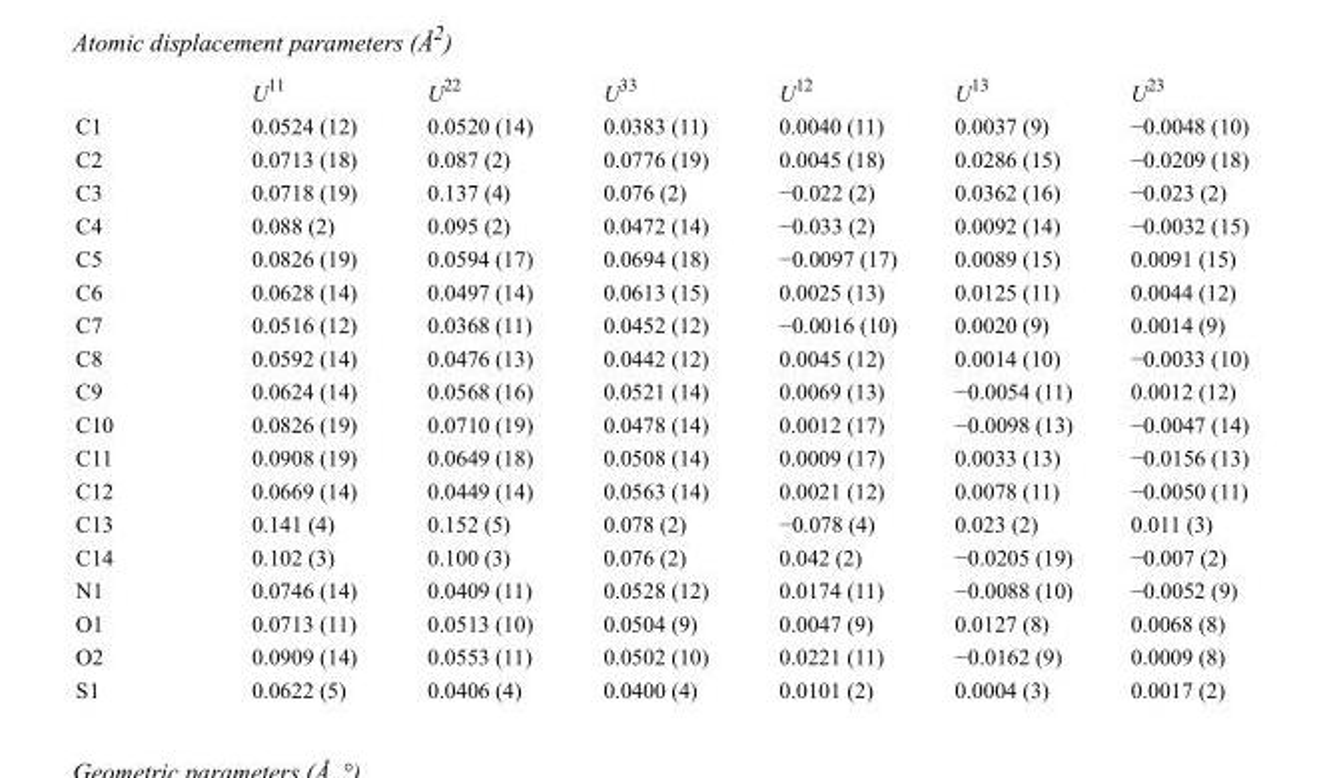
<table><thead><tr><td></td><td>U<sup>11</sup></td><td>U<sup>22</sup></td><td>U<sup>33</sup></td><td>U<sup>12</sup></td><td>U<sup>13</sup></td><td>U<sup>23</sup></td></tr></thead><tbody><tr><td>C1</td><td>0.0524 (12)</td><td>0.0520 (14)</td><td>0.0383 (11)</td><td>0.0040 (11)</td><td>0.0037 (9)</td><td>−0.0048 (10)</td></tr><tr><td>C2</td><td>0.0713 (18)</td><td>0.087 (2)</td><td>0.0776 (19)</td><td>0.0045 (18)</td><td>0.0286 (15)</td><td>−0.0209 (18)</td></tr><tr><td>C3</td><td>0.0718 (19)</td><td>0.137 (4)</td><td>0.076 (2)</td><td>−0.022 (2)</td><td>0.0362 (16)</td><td>−0.023 (2)</td></tr><tr><td>C4</td><td>0.088 (2)</td><td>0.095 (2)</td><td>0.0472 (14)</td><td>−0.033 (2)</td><td>0.0092 (14)</td><td>−0.0032 (15)</td></tr><tr><td>C5</td><td>0.0826 (19)</td><td>0.0594 (17)</td><td>0.0694 (18)</td><td>−0.0097 (17)</td><td>0.0089 (15)</td><td>0.0091 (15)</td></tr><tr><td>C6</td><td>0.0628 (14)</td><td>0.0497 (14)</td><td>0.0613 (15)</td><td>0.0025 (13)</td><td>0.0125 (11)</td><td>0.0044 (12)</td></tr><tr><td>C7</td><td>0.0516 (12)</td><td>0.0368 (11)</td><td>0.0452 (12)</td><td>−0.0016 (10)</td><td>0.0020 (9)</td><td>0.0014 (9)</td></tr><tr><td>C8</td><td>0.0592 (14)</td><td>0.0476 (13)</td><td>0.0442 (12)</td><td>0.0045 (12)</td><td>0.0014 (10)</td><td>−0.0033 (10)</td></tr><tr><td>C9</td><td>0.0624 (14)</td><td>0.0568 (16)</td><td>0.0521 (14)</td><td>0.0069 (13)</td><td>−0.0054 (11)</td><td>0.0012 (12)</td></tr><tr><td>C10</td><td>0.0826 (19)</td><td>0.0710 (19)</td><td>0.0478 (14)</td><td>0.0012 (17)</td><td>−0.0098 (13)</td><td>−0.0047 (14)</td></tr><tr><td>C11</td><td>0.0908 (19)</td><td>0.0649 (18)</td><td>0.0508 (14)</td><td>0.0009 (17)</td><td>0.0033 (13)</td><td>−0.0156 (13)</td></tr><tr><td>C12</td><td>0.0669 (14)</td><td>0.0449 (14)</td><td>0.0563 (14)</td><td>0.0021 (12)</td><td>0.0078 (11)</td><td>−0.0050 (11)</td></tr><tr><td>C13</td><td>0.141 (4)</td><td>0.152 (5)</td><td>0.078 (2)</td><td>−0.078 (4)</td><td>0.023 (2)</td><td>0.011 (3)</td></tr><tr><td>C14</td><td>0.102 (3)</td><td>0.100 (3)</td><td>0.076 (2)</td><td>0.042 (2)</td><td>−0.0205 (19)</td><td>−0.007 (2)</td></tr><tr><td>N1</td><td>0.0746 (14)</td><td>0.0409 (11)</td><td>0.0528 (12)</td><td>0.0174 (11)</td><td>−0.0088 (10)</td><td>−0.0052 (9)</td></tr><tr><td>O1</td><td>0.0713 (11)</td><td>0.0513 (10)</td><td>0.0504 (9)</td><td>0.0047 (9)</td><td>0.0127 (8)</td><td>0.0068 (8)</td></tr><tr><td>O2</td><td>0.0909 (14)</td><td>0.0553 (11)</td><td>0.0502 (10)</td><td>0.0221 (11)</td><td>−0.0162 (9)</td><td>0.0009 (8)</td></tr><tr><td>S1</td><td>0.0622 (5)</td><td>0.0406 (4)</td><td>0.0400 (4)</td><td>0.0101 (2)</td><td>0.0004 (3)</td><td>0.0017 (2)</td></tr></tbody></table>